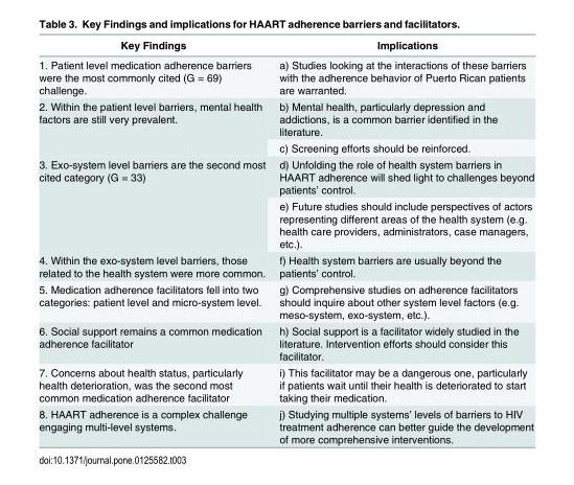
<table><thead><tr><td>Key Findings</td><td>Implications</td></tr></thead><tbody><tr><td>1. Patient level medication adherence barriers were the most commonly cited (G = 69) challenge.</td><td>a) Studies looking at the interactions of these barriers with the adherence behavior of Puerto Rican patients are warranted.</td></tr><tr><td rowspan="2">2. Within the patient level barriers, mental health factors are still very prevalent.</td><td>b) Mental health, particularly depression and addictions, is a common barrier identified in the literature.</td></tr><tr><td>c) Screening efforts should be reinforced.</td></tr><tr><td rowspan="2">3. Exo-system level barriers are the second most cited category (G = 33)</td><td>d) Unfolding the role of health system barriers in HAART adherence will shed light to challenges beyond patients’ control.</td></tr><tr><td>e) Future studies should include perspectives of actors representing different areas of the health system (e.g. health care providers, administrators, case managers, etc.).</td></tr><tr><td>4. Within the exo-system level barriers, those related to the health system were more common.</td><td>f) Health system barriers are usually beyond the patients’ control.</td></tr><tr><td>5. Medication adherence facilitators fell into two categories: patient level and micro-system level.</td><td>g) Comprehensive studies on adherence facilitators should inquire about other system level factors (e.g. meso-system, exo-system, etc.).</td></tr><tr><td>6. Social support remains a common medication adherence facilitator</td><td>h) Social support is a facilitator widely studied in the literature. Intervention efforts should consider this facilitator.</td></tr><tr><td>7. Concerns about health status, particularly health deterioration, was the second most common medication adherence facilitator</td><td>i) This facilitator may be a dangerous one, particularly if patients wait until their health is deteriorated to start taking their medication.</td></tr><tr><td>8. HAART adherence is a complex challenge engaging multi-level systems.</td><td>j) Studying multiple systems’ levels of barriers to HIV treatment adherence can better guide the development of more comprehensive interventions.</td></tr></tbody></table>